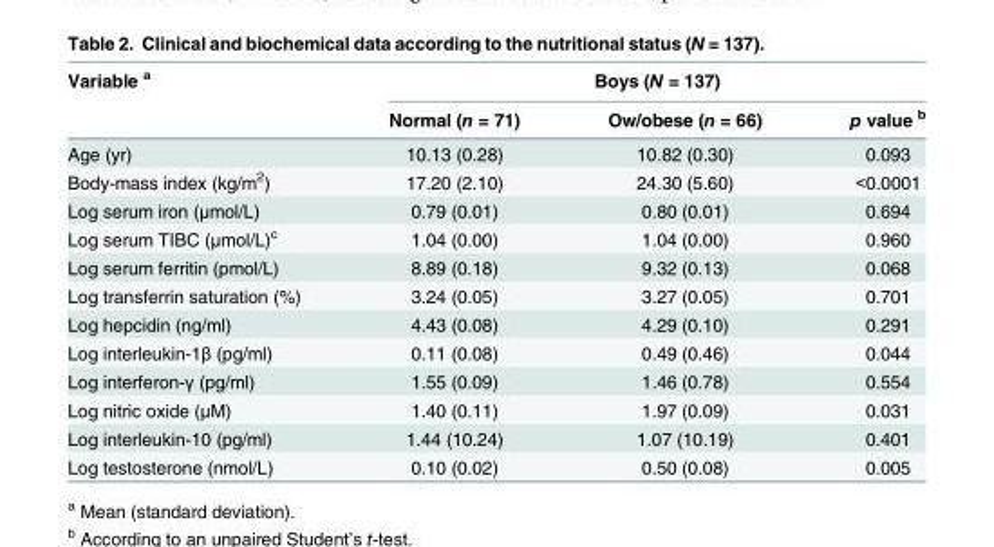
<table><thead><tr><td rowspan="2">Variable <sup>a</sup></td><td colspan="3">Boys (N = 137)</td></tr><tr><td>Normal (n = 71)</td><td>Ow/obese (n = 66)</td><td>p value <sup>b</sup></td></tr></thead><tbody><tr><td>Age (yr)</td><td>10.13 (0.28)</td><td>10.82 (0.30)</td><td>0.093</td></tr><tr><td>Body-mass index (kg/m<sup>2</sup>)</td><td>17.20 (2.10)</td><td>24.30 (5.60)</td><td>&lt;0.0001</td></tr><tr><td>Log serum iron (μmol/L)</td><td>0.79 (0.01)</td><td>0.80 (0.01)</td><td>0.694</td></tr><tr><td>Log serum TIBC (μmol/L)<sup>c</sup></td><td>1.04 (0.00)</td><td>1.04 (0.00)</td><td>0.960</td></tr><tr><td>Log serum ferritin (pmol/L)</td><td>8.89 (0.18)</td><td>9.32 (0.13)</td><td>0.068</td></tr><tr><td>Log transferrin saturation (%)</td><td>3.24 (0.05)</td><td>3.27 (0.05)</td><td>0.701</td></tr><tr><td>Log hepcidin (ng/ml)</td><td>4.43 (0.08)</td><td>4.29 (0.10)</td><td>0.291</td></tr><tr><td>Log interleukin-1β (pg/ml)</td><td>0.11 (0.08)</td><td>0.49 (0.46)</td><td>0.044</td></tr><tr><td>Log interferon-γ (pg/ml)</td><td>1.55 (0.09)</td><td>1.46 (0.78)</td><td>0.554</td></tr><tr><td>Log nitric oxide (μM)</td><td>1.40 (0.11)</td><td>1.97 (0.09)</td><td>0.031</td></tr><tr><td>Log interleukin-10 (pg/ml)</td><td>1.44 (10.24)</td><td>1.07 (10.19)</td><td>0.401</td></tr><tr><td>Log testosterone (nmol/L)</td><td>0.10 (0.02)</td><td>0.50 (0.08)</td><td>0.005</td></tr></tbody></table>